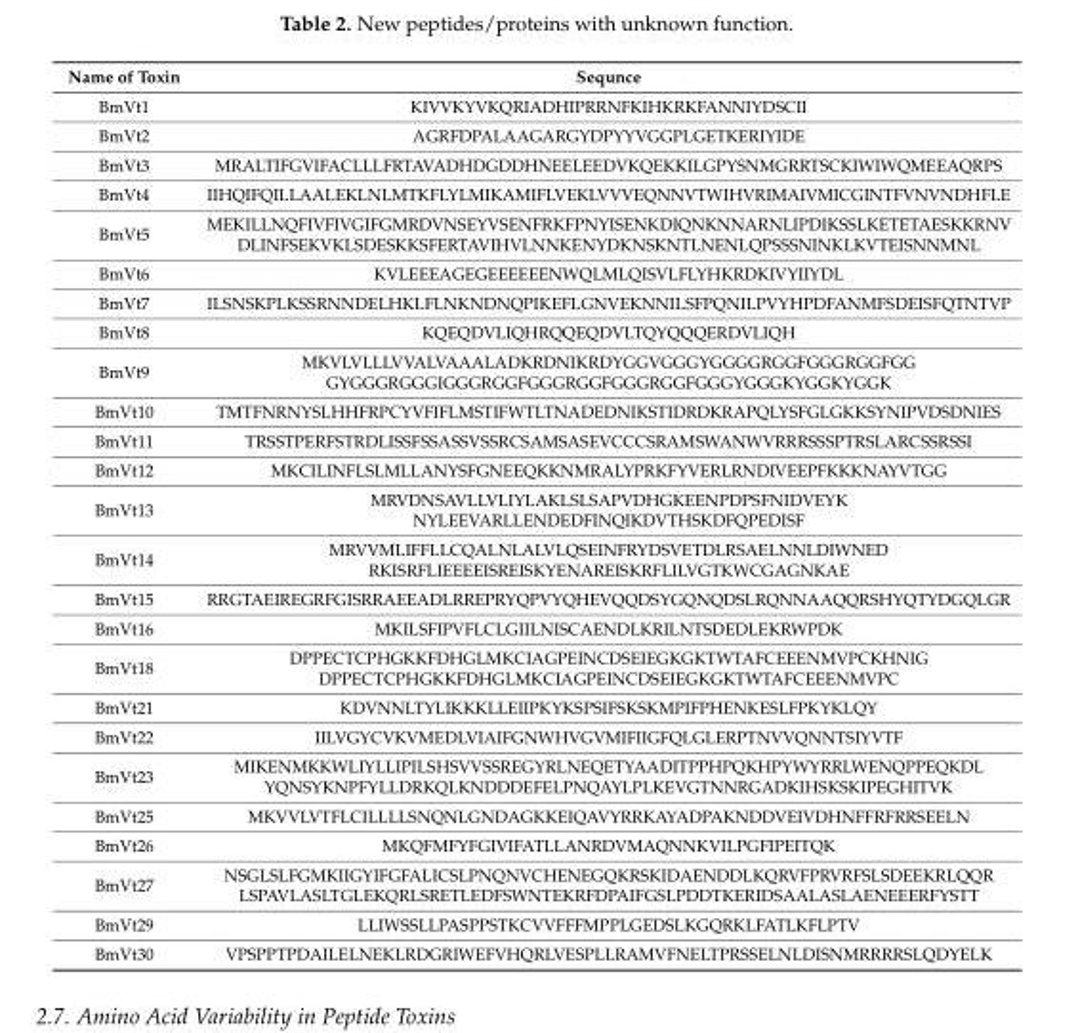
<table><thead><tr><td>Name of Toxin</td><td>Sequnce</td></tr></thead><tbody><tr><td>BmVt1</td><td>KIVVKYVKQRIADHIPRRNFKIHKRKFANNIYDSCII</td></tr><tr><td>BmVt2</td><td>AGRFDPALAAGARGYDPYYVGGPLGETKERIYIDE</td></tr><tr><td>BmVt3</td><td>MRALTIFGVIFACLLLFRTAVADHDGDDHNEELEEDVKQEKKILGPYSNMGRRTSCKIWIWQMEEAQRPS</td></tr><tr><td>BmVt4</td><td>IIHQIFQILLAALEKLNLMTKFLYLMIKAMIFLVEKLVVVEQNNVTWIHVRIMAIVMICGINTFVNVNDHFLE</td></tr><tr><td>BmVt5</td><td>MEKILLNQFIVFIVGIFGMRDVNSEYVSENFRKFPNYISENKDIQNKNNARNLIPDIKSSLKETETAESKKRNV DLINFSEKVKLSDESKKSFERTAVIHVLNNKENYDKNSKNTLNENLQPSSSNINKLKVTEISNNMNL</td></tr><tr><td>BmVt6</td><td>KVLEEEAGEGEEEEEENWQLMLQISVLFLYHKRDKIVYIIYDL</td></tr><tr><td>BmVt7</td><td>ILSNSKPLKSSRNNDELHKLFLNKNDNQPIKEFLGNVEKNNILSFPQNILPVYHPDFANMFSDEISFQTNTVP</td></tr><tr><td>BmVt8</td><td>KQEQDVLIQHRQQEQDVLTQYQQQERDVLIQH</td></tr><tr><td>BmVt9</td><td>MKVLVLLLVVALVAAALADKRDNIKRDYGGVGGGYGGGGRGGFGGGRGGFGG GYGGGRGGGIGGGRGGFGGGRGGFGGGRGGFGGGYGGGKYGGKYGGK</td></tr><tr><td>BmVt10</td><td>TMTFNRNYSLHHFRPCYVFIFLMSTIFWTLTNADEDNIKSTIDRDKRAPQLYSFGLGKKSYNIPVDSDNIES</td></tr><tr><td>BmVt11</td><td>TRSSTPERFSTRDLISSFSSASSVSSRCSAMSASEVCCCSRAMSWANWVRRRSSSPTRSLARCSSRSSI</td></tr><tr><td>BmVt12</td><td>MKCILINFLSLMLLANYSFGNEEQKKNMRALYPRKFYVERLRNDIVEEPFKKKNAYVTGG</td></tr><tr><td>BmVt13</td><td>MRVDNSAVLLVLIYLAKLSLSAPVDHGKEENPDPSFNIDVEYK NYLEEVARLLENDEDFINQIKDVTHSKDFQPEDISF</td></tr><tr><td>BmVt14</td><td>MRVVMLIFFLLCQALNLALVLQSEINFRYDSVETDLRSAELNNLDIWNED RKISRFLIEEEEISREISKYENAREISKRFLILVGTKWCGAGNKAE</td></tr><tr><td>BmVt15</td><td>RRGTAEIREGRFGISRRAEEADLRREPRYQPVYQHEVQQDSYGQNQDSLRQNNAAQQRSHYQTYDGQLGR</td></tr><tr><td>BmVt16</td><td>MKILSFIPVFLCLGIILNISCAENDLKRILNTSDEDLEKRWPDK</td></tr><tr><td>BmVt18</td><td>DPPECTCPHGKKFDHGLMKCIAGPEINCDSEIEGKGKTWTAFCEEENMVPCKHNIG DPPECTCPHGKKFDHGLMKCIAGPEINCDSEIEGKGKTWTAFCEEENMVPC</td></tr><tr><td>BmVt21</td><td>KDVNNLTYLIKKKLLEIIPKYKSPSIFSKSKMPIFPHENKESLFPKYKLQY</td></tr><tr><td>BmVt22</td><td>IILVGYCVKVMEDLVIAIFGNWHVGVMIFIIGFQLGLERPTNVVQNNTSIYVTF</td></tr><tr><td>BmVt23</td><td>MIKENMKKWLIYLLIPILSHSVVSSREGYRLNEQETYAADITPPHPQKHPYWYRRLWENQPPEQKDL YQNSYKNPFYLLDRKQLKNDDDEFELPNQAYLPLKEVGTNNRGADKIHSKSKIPEGHITVK</td></tr><tr><td>BmVt25</td><td>MKVVLVTFLCILLLLSNQNLGNDAGKKEIQAVYRRKAYADPAKNDDVEIVDHNFFRFRRSEELN</td></tr><tr><td>BmVt26</td><td>MKQFMFYFGIVIFATLLANRDVMAQNNKVILPGFIPEITQK</td></tr><tr><td>BmVt27</td><td>NSGLSLFGMKIIGYIFGFALICSLPNQNVCHENEGQKRSKIDAENDDLKQRVFPRVRFSLSDEEKRLQQR LSPAVLASLTGLEKQRLSRETLEDFSWNTEKRFDPAIFGSLPDDTKERIDSAALASLAENEEERFYSTT</td></tr><tr><td>BmVt29</td><td>LLIWSSLLPASPPSTKCVVFFFMPPLGEDSLKGQRKLFATLKFLPTV</td></tr><tr><td>BmVt30</td><td>VPSPPTPDAILELNEKLRDGRIWEFVHQRLVESPLLRAMVFNELTPRSSELNLDISNMRRRRSLQDYELK</td></tr></tbody></table>